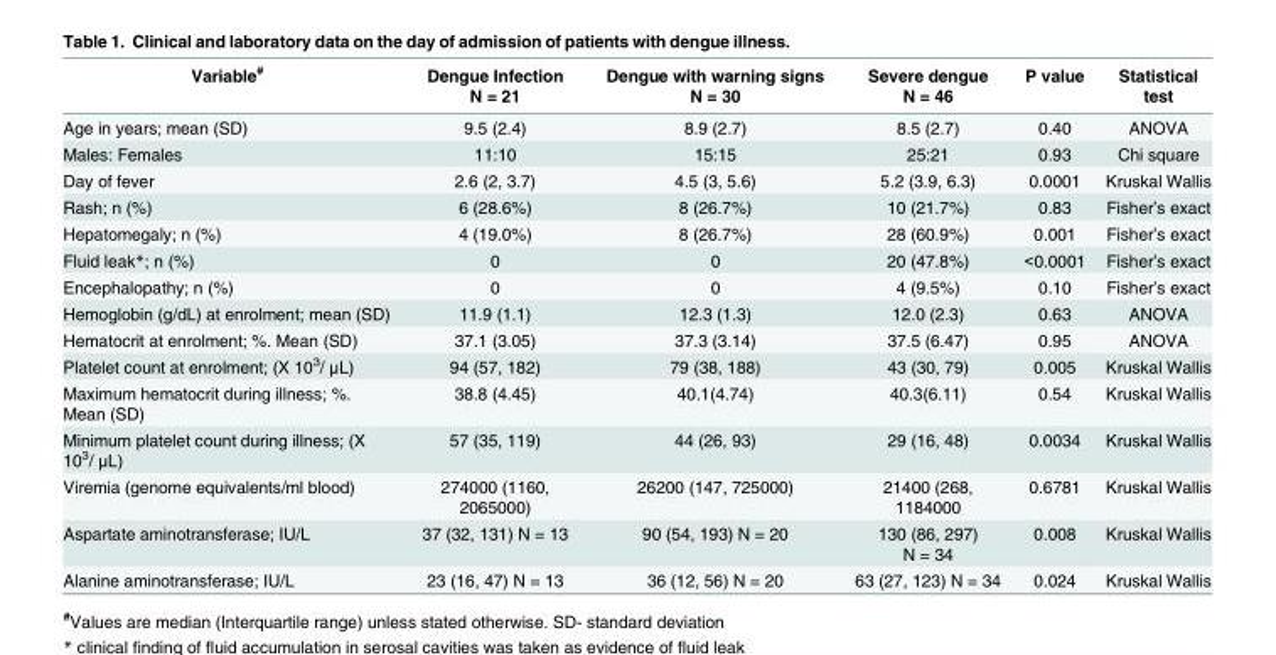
<table><thead><tr><td>Variable<sup>#</sup></td><td>Dengue Infection N = 21</td><td>Dengue with warning signs N = 30</td><td>Severe dengue N = 46</td><td>P value</td><td>Statistical test</td></tr></thead><tbody><tr><td>Age in years; mean (SD)</td><td>9.5 (2.4)</td><td>8.9 (2.7)</td><td>8.5 (2.7)</td><td>0.40</td><td>ANOVA</td></tr><tr><td>Males: Females</td><td>11:10</td><td>15:15</td><td>25:21</td><td>0.93</td><td>Chi square</td></tr><tr><td>Day of fever</td><td>2.6 (2, 3.7)</td><td>4.5 (3, 5.6)</td><td>5.2 (3.9, 6.3)</td><td>0.0001</td><td>Kruskal Wallis</td></tr><tr><td>Rash; n (%)</td><td>6 (28.6%)</td><td>8 (26.7%)</td><td>10 (21.7%)</td><td>0.83</td><td>Fisher’s exact</td></tr><tr><td>Hepatomegaly; n (%)</td><td>4 (19.0%)</td><td>8 (26.7%)</td><td>28 (60.9%)</td><td>0.001</td><td>Fisher’s exact</td></tr><tr><td>Fluid leak*; n (%)</td><td>0</td><td>0</td><td>20 (47.8%)</td><td>&lt;0.0001</td><td>Fisher’s exact</td></tr><tr><td>Encephalopathy; n (%)</td><td>0</td><td>0</td><td>4 (9.5%)</td><td>0.10</td><td>Fisher’s exact</td></tr><tr><td>Hemoglobin (g/dL) at enrolment; mean (SD)</td><td>11.9 (1.1)</td><td>12.3 (1.3)</td><td>12.0 (2.3)</td><td>0.63</td><td>ANOVA</td></tr><tr><td>Hematocrit at enrolment; %. Mean (SD)</td><td>37.1 (3.05)</td><td>37.3 (3.14)</td><td>37.5 (6.47)</td><td>0.95</td><td>ANOVA</td></tr><tr><td>Platelet count at enrolment; (X 10<sup>3</sup>/ μL)</td><td>94 (57, 182)</td><td>79 (38, 188)</td><td>43 (30, 79)</td><td>0.005</td><td>Kruskal Wallis</td></tr><tr><td>Maximum hematocrit during illness; %. Mean (SD)</td><td>38.8 (4.45)</td><td>40.1(4.74)</td><td>40.3(6.11)</td><td>0.54</td><td>Kruskal Wallis</td></tr><tr><td>Minimum platelet count during illness; (X 10<sup>3</sup>/ μL)</td><td>57 (35, 119)</td><td>44 (26, 93)</td><td>29 (16, 48)</td><td>0.0034</td><td>Kruskal Wallis</td></tr><tr><td>Viremia (genome equivalents/ml blood)</td><td>274000 (1160, 2065000)</td><td>26200 (147, 725000)</td><td>21400 (268, 1184000</td><td>0.6781</td><td>Kruskal Wallis</td></tr><tr><td>Aspartate aminotransferase; IU/L</td><td>37 (32, 131) N = 13</td><td>90 (54, 193) N = 20</td><td>130 (86, 297) N = 34</td><td>0.008</td><td>Kruskal Wallis</td></tr><tr><td>Alanine aminotransferase; IU/L</td><td>23 (16, 47) N = 13</td><td>36 (12, 56) N = 20</td><td>63 (27, 123) N = 34</td><td>0.024</td><td>Kruskal Wallis</td></tr></tbody></table>